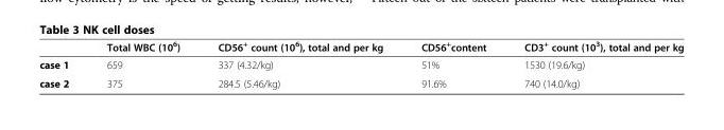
<table><thead><tr><td></td><td>Total WBC (10<sup>6</sup>)</td><td>CD56<sup>+</sup> count (10<sup>6</sup>), total and per kg</td><td>CD56<sup>+</sup>content</td><td>CD3<sup>+</sup> count (10<sup>3</sup>), total and per kg</td></tr></thead><tbody><tr><td>case 1</td><td>659</td><td>337 (4.32/kg)</td><td>51%</td><td>1530 (19.6/kg)</td></tr><tr><td>case 2</td><td>375</td><td>284.5 (5.46/kg)</td><td>91.6%</td><td>740 (14.0/kg)</td></tr></tbody></table>